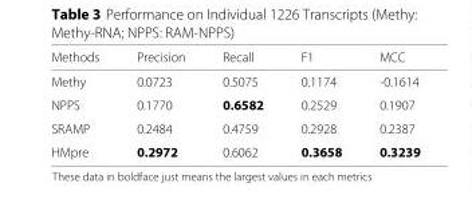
<table><thead><tr><td>Methods</td><td>Precision</td><td>Recall</td><td>F1</td><td>MCC</td></tr></thead><tbody><tr><td>Methy</td><td>0.0723</td><td>0.5075</td><td>0.1174</td><td>-0.1614</td></tr><tr><td>NPPS</td><td>0.1770</td><td>0.6582</td><td>0.2529</td><td>0.1907</td></tr><tr><td>SRAMP</td><td>0.2484</td><td>0.4759</td><td>0.2928</td><td>0.2387</td></tr><tr><td>HMpre</td><td>0.2972</td><td>0.6062</td><td>0.3658</td><td>0.3239</td></tr></tbody></table>